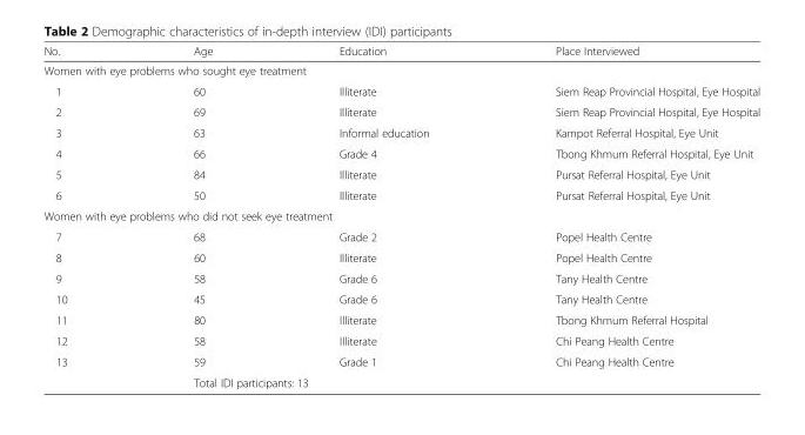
<table><thead><tr><td>No.</td><td>Age</td><td>Education</td><td>Place Interviewed</td></tr></thead><tbody><tr><td colspan="4">Women with eye problems who sought eye treatment</td></tr><tr><td>1</td><td>60</td><td>Illiterate</td><td>Siem Reap Provincial Hospital, Eye Hospital</td></tr><tr><td>2</td><td>69</td><td>Illiterate</td><td>Siem Reap Provincial Hospital, Eye Hospital</td></tr><tr><td>3</td><td>63</td><td>Informal education</td><td>Kampot Referral Hospital, Eye Unit</td></tr><tr><td>4</td><td>66</td><td>Grade 4</td><td>Tbong Khmum Referral Hospital, Eye Unit</td></tr><tr><td>5</td><td>84</td><td>Illiterate</td><td>Pursat Referral Hospital, Eye Unit</td></tr><tr><td>6</td><td>50</td><td>Illiterate</td><td>Pursat Referral Hospital, Eye Unit</td></tr><tr><td colspan="4">Women with eye problems who did not seek eye treatment</td></tr><tr><td>7</td><td>68</td><td>Grade 2</td><td>Popel Health Centre</td></tr><tr><td>8</td><td>60</td><td>Illiterate</td><td>Popel Health Centre</td></tr><tr><td>9</td><td>58</td><td>Grade 6</td><td>Tany Health Centre</td></tr><tr><td>10</td><td>45</td><td>Grade 6</td><td>Tany Health Centre</td></tr><tr><td>11</td><td>80</td><td>Illiterate</td><td>Tbong Khmum Referral Hospital</td></tr><tr><td>12</td><td>58</td><td>Illiterate</td><td>Chi Peang Health Centre</td></tr><tr><td rowspan="2">13</td><td>59</td><td>Grade 1</td><td>Chi Peang Health Centre</td></tr><tr><td colspan="3">Total IDI participants: 13</td></tr></tbody></table>